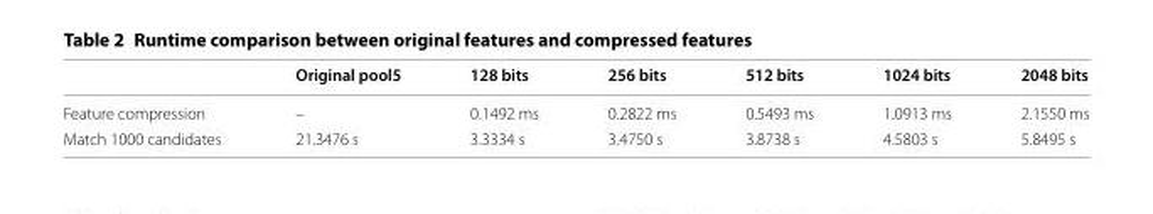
<table><thead><tr><td></td><td>Original pool5</td><td>128 bits</td><td>256 bits</td><td>512 bits</td><td>1024 bits</td><td>2048 bits</td></tr></thead><tbody><tr><td>Feature compression</td><td>–</td><td>0.1492 ms</td><td>0.2822 ms</td><td>0.5493 ms</td><td>1.0913 ms</td><td>2.1550 ms</td></tr><tr><td>Match 1000 candidates</td><td>21.3476 s</td><td>3.3334 s</td><td>3.4750 s</td><td>3.8738 s</td><td>4.5803 s</td><td>5.8495 s</td></tr></tbody></table>